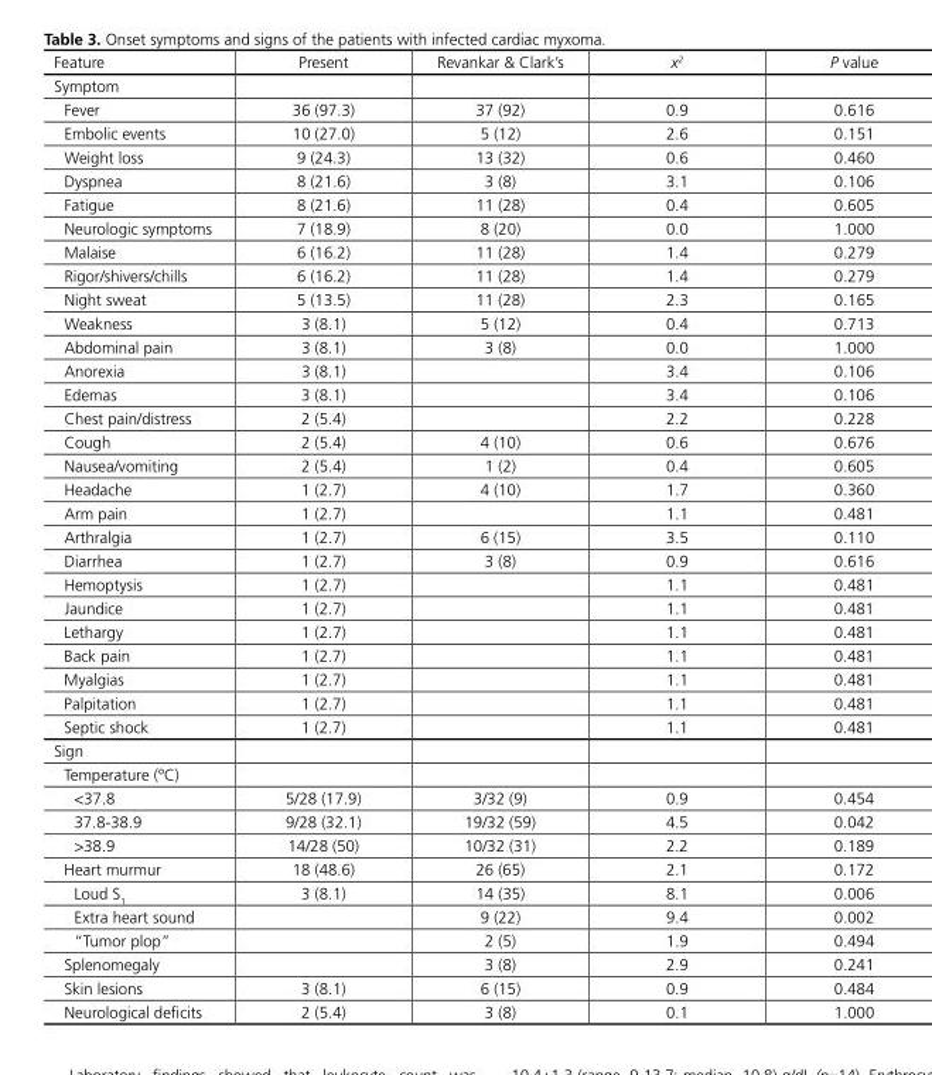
<table><thead><tr><td>Feature</td><td>Present</td><td>Revankar &amp; Clark’s</td><td>x<sup>2</sup></td><td>P value</td></tr></thead><tbody><tr><td colspan="5">Symptom</td></tr><tr><td>Fever</td><td>36 (97.3)</td><td>37 (92)</td><td>0.9</td><td>0.616</td></tr><tr><td>Embolic events</td><td>10 (27.0)</td><td>5 (12)</td><td>2.6</td><td>0.151</td></tr><tr><td>Weight loss</td><td>9 (24.3)</td><td>13 (32)</td><td>0.6</td><td>0.460</td></tr><tr><td>Dyspnea</td><td>8 (21.6)</td><td>3 (8)</td><td>3.1</td><td>0.106</td></tr><tr><td>Fatigue</td><td>8 (21.6)</td><td>11 (28)</td><td>0.4</td><td>0.605</td></tr><tr><td>Neurologic symptoms</td><td>7 (18.9)</td><td>8 (20)</td><td>0.0</td><td>1.000</td></tr><tr><td>Malaise</td><td>6 (16.2)</td><td>11 (28)</td><td>1.4</td><td>0.279</td></tr><tr><td>Rigor/shivers/chills</td><td>6 (16.2)</td><td>11 (28)</td><td>1.4</td><td>0.279</td></tr><tr><td>Night sweat</td><td>5 (13.5)</td><td>11 (28)</td><td>2.3</td><td>0.165</td></tr><tr><td>Weakness</td><td>3 (8.1)</td><td>5 (12)</td><td>0.4</td><td>0.713</td></tr><tr><td>Abdominal pain</td><td>3 (8.1)</td><td>3 (8)</td><td>0.0</td><td>1.000</td></tr><tr><td>Anorexia</td><td>3 (8.1)</td><td></td><td>3.4</td><td>0.106</td></tr><tr><td>Edemas</td><td>3 (8.1)</td><td></td><td>3.4</td><td>0.106</td></tr><tr><td>Chest pain/distress</td><td>2 (5.4)</td><td></td><td>2.2</td><td>0.228</td></tr><tr><td>Cough</td><td>2 (5.4)</td><td>4 (10)</td><td>0.6</td><td>0.676</td></tr><tr><td>Nausea/vomiting</td><td>2 (5.4)</td><td>1 (2)</td><td>0.4</td><td>0.605</td></tr><tr><td>Headache</td><td>1 (2.7)</td><td>4 (10)</td><td>1.7</td><td>0.360</td></tr><tr><td>Arm pain</td><td>1 (2.7)</td><td></td><td>1.1</td><td>0.481</td></tr><tr><td>Arthralgia</td><td>1 (2.7)</td><td>6 (15)</td><td>3.5</td><td>0.110</td></tr><tr><td>Diarrhea</td><td>1 (2.7)</td><td>3 (8)</td><td>0.9</td><td>0.616</td></tr><tr><td>Hemoptysis</td><td>1 (2.7)</td><td></td><td>1.1</td><td>0.481</td></tr><tr><td>Jaundice</td><td>1 (2.7)</td><td></td><td>1.1</td><td>0.481</td></tr><tr><td>Lethargy</td><td>1 (2.7)</td><td></td><td>1.1</td><td>0.481</td></tr><tr><td>Back pain</td><td>1 (2.7)</td><td></td><td>1.1</td><td>0.481</td></tr><tr><td>Myalgias</td><td>1 (2.7)</td><td></td><td>1.1</td><td>0.481</td></tr><tr><td>Palpitation</td><td>1 (2.7)</td><td></td><td>1.1</td><td>0.481</td></tr><tr><td>Septic shock</td><td>1 (2.7)</td><td></td><td>1.1</td><td>0.481</td></tr><tr><td colspan="5">Sign</td></tr><tr><td colspan="5">Temperature (ºC)</td></tr><tr><td>&lt;37.8</td><td>5/28 (17.9)</td><td>3/32 (9)</td><td>0.9</td><td>0.454</td></tr><tr><td>37.8-38.9</td><td>9/28 (32.1)</td><td>19/32 (59)</td><td>4.5</td><td>0.042</td></tr><tr><td>&gt;38.9</td><td>14/28 (50)</td><td>10/32 (31)</td><td>2.2</td><td>0.189</td></tr><tr><td>Heart murmur</td><td>18 (48.6)</td><td>26 (65)</td><td>2.1</td><td>0.172</td></tr><tr><td>Loud S1</td><td>3 (8.1)</td><td>14 (35)</td><td>8.1</td><td>0.006</td></tr><tr><td>Extra heart sound</td><td></td><td>9 (22)</td><td>9.4</td><td>0.002</td></tr><tr><td>“Tumor plop”</td><td></td><td>2 (5)</td><td>1.9</td><td>0.494</td></tr><tr><td>Splenomegaly</td><td></td><td>3 (8)</td><td>2.9</td><td>0.241</td></tr><tr><td>Skin lesions</td><td>3 (8.1)</td><td>6 (15)</td><td>0.9</td><td>0.484</td></tr><tr><td>Neurological deficits</td><td>2 (5.4)</td><td>3 (8)</td><td>0.1</td><td>1.000</td></tr></tbody></table>